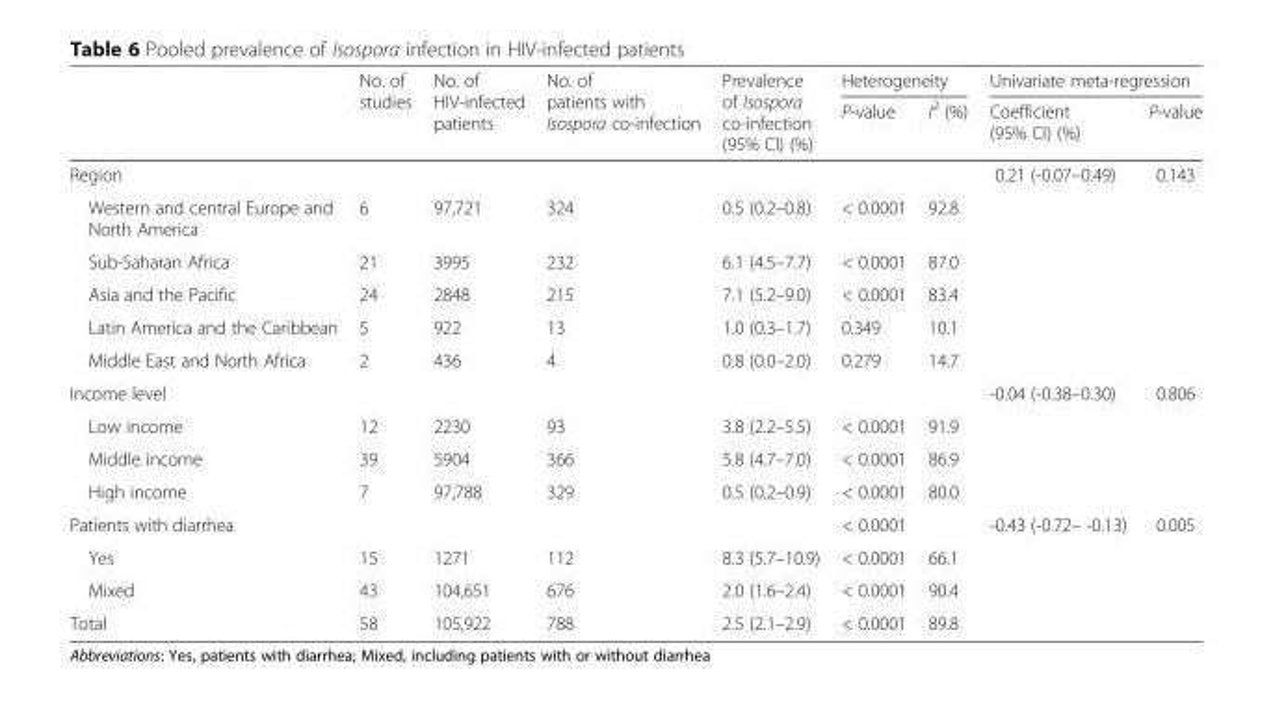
<table><thead><tr><td rowspan="2"></td><td rowspan="2">No. of studies</td><td rowspan="2">No. of HIV-infected patients</td><td rowspan="2">No. of patients with Isospora co-infection</td><td rowspan="2">Prevalence of Isospora co-infection (95% CI) (%)</td><td colspan="2">Heterogeneity</td><td colspan="2">Univariate meta-regression</td></tr><tr><td>P-value</td><td>I<sup>2</sup> (%)</td><td>Coefficient (95% CI) (%)</td><td>P-value</td></tr></thead><tbody><tr><td>Region</td><td></td><td></td><td></td><td></td><td></td><td></td><td>0.21 (-0.07–0.49)</td><td>0.143</td></tr><tr><td>Western and central Europe and North America</td><td>6</td><td>97,721</td><td>324</td><td>0.5 (0.2–0.8)</td><td>&lt; 0.0001</td><td>92.8</td><td></td><td></td></tr><tr><td>Sub-Saharan Africa</td><td>21</td><td>3995</td><td>232</td><td>6.1 (4.5–7.7)</td><td>&lt; 0.0001</td><td>87.0</td><td></td><td></td></tr><tr><td>Asia and the Pacific</td><td>24</td><td>2848</td><td>215</td><td>7.1 (5.2–9.0)</td><td>&lt; 0.0001</td><td>83.4</td><td></td><td></td></tr><tr><td>Latin America and the Caribbean</td><td>5</td><td>922</td><td>13</td><td>1.0 (0.3–1.7)</td><td>0.349</td><td>10.1</td><td></td><td></td></tr><tr><td>Middle East and North Africa</td><td>2</td><td>436</td><td>4</td><td>0.8 (0.0–2.0)</td><td>0.279</td><td>14.7</td><td></td><td></td></tr><tr><td>Income level</td><td></td><td></td><td></td><td></td><td></td><td></td><td>-0.04 (-0.38–0.30)</td><td>0.806</td></tr><tr><td>Low income</td><td>12</td><td>2230</td><td>93</td><td>3.8 (2.2–5.5)</td><td>&lt; 0.0001</td><td>91.9</td><td></td><td></td></tr><tr><td>Middle income</td><td>39</td><td>5904</td><td>366</td><td>5.8 (4.7–7.0)</td><td>&lt; 0.0001</td><td>86.9</td><td></td><td></td></tr><tr><td>High income</td><td>7</td><td>97,788</td><td>329</td><td>0.5 (0.2–0.9)</td><td>&lt; 0.0001</td><td>80.0</td><td></td><td></td></tr><tr><td>Patients with diarrhea</td><td></td><td></td><td></td><td></td><td>&lt; 0.0001</td><td></td><td>-0.43 (-0.72– -0.13)</td><td>0.005</td></tr><tr><td>Yes</td><td>15</td><td>1271</td><td>112</td><td>8.3 (5.7–10.9)</td><td>&lt; 0.0001</td><td>66.1</td><td></td><td></td></tr><tr><td>Mixed</td><td>43</td><td>104,651</td><td>676</td><td>2.0 (1.6–2.4)</td><td>&lt; 0.0001</td><td>90.4</td><td></td><td></td></tr><tr><td>Total</td><td>58</td><td>105,922</td><td>788</td><td>2.5 (2.1–2.9)</td><td>&lt; 0.0001</td><td>89.8</td><td></td><td></td></tr></tbody></table>